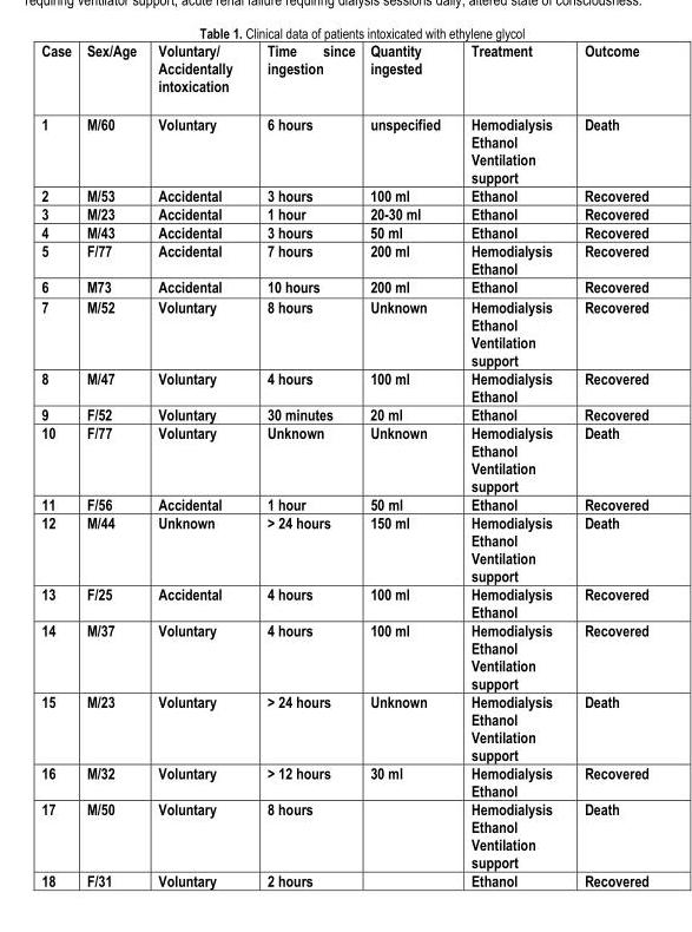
<table><thead><tr><td rowspan="19">Case 1 2 3 4 5 6 7 8 9 10 11 12 13 14 15 16 17 18</td><td rowspan="19">Sex/Age M/60 M/53 M/23 M/43 F/77 M73 M/52 M/47 F/52 F/77 F/56 M/44 F/25 M/37 M/23 M/32 M/50 F/31</td><td rowspan="19">Voluntary/ Accidentally intoxication Voluntary Accidental Accidental Accidental Accidental Accidental Voluntary Voluntary Voluntary Voluntary Accidental Unknown Accidental Voluntary Voluntary Voluntary Voluntary Voluntary</td><td rowspan="19">Time since ingestion 6 hours 3 hours 1 hour 3 hours 7 hours 10 hours 8 hours 4 hours 30 minutes Unknown 1 hour &gt; 24 hours 4 hours 4 hours &gt; 24 hours &gt; 12 hours 8 hours 2 hours</td><td rowspan="19">Quantity ingested unspecified 100 ml 20-30 ml 50 ml 200 ml 200 ml Unknown 100 ml 20 ml Unknown 50 ml 150 ml 100 ml 100 ml Unknown 30 ml</td><td rowspan="19">Treatment Hemodialysis Ethanol Ventilation support Ethanol Ethanol Ethanol Hemodialysis Ethanol Ethanol Hemodialysis Ethanol Ventilation support Hemodialysis Ethanol Ethanol Hemodialysis Ethanol Ventilation support Ethanol Hemodialysis Ethanol Ventilation support Hemodialysis Ethanol Hemodialysis Ethanol Ventilation support Hemodialysis Ethanol Ventilation support Hemodialysis Ethanol Hemodialysis Ethanol Ventilation support Ethanol</td><td rowspan="19">Outcome Death Recovered Recovered Recovered Recovered Recovered Recovered Recovered Recovered Death Recovered Death Recovered Recovered Death Recovered Death Recovered</td></tr><tr></tr><tr></tr><tr></tr><tr></tr><tr></tr><tr></tr><tr></tr><tr></tr><tr></tr><tr></tr><tr></tr><tr></tr><tr></tr><tr></tr><tr></tr><tr></tr><tr></tr><tr></tr></thead><tbody></tbody></table>